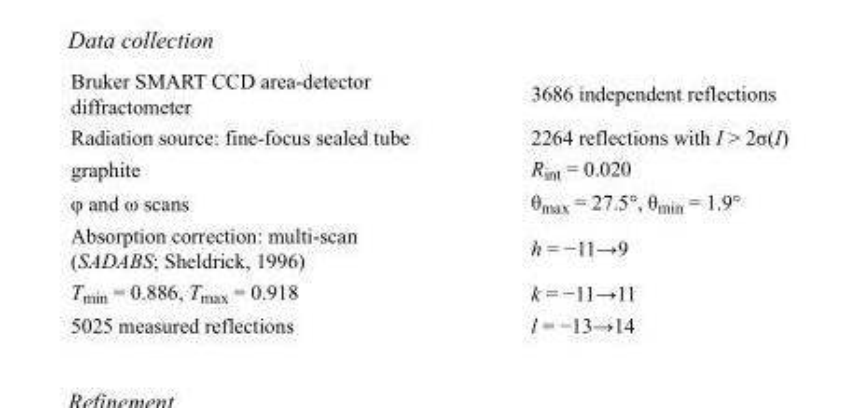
<table><tbody><tr><td>Bruker SMART CCD area-detector diffractometer</td><td>3686 independent reflections</td></tr><tr><td>Radiation source: fine-focus sealed tube</td><td>2264 reflections with I &gt; 2σ(I)</td></tr><tr><td>graphite</td><td>R<sub>int</sub> = 0.020</td></tr><tr><td>φ and ω scans</td><td>θ<sub>max</sub> = 27.5°, θ<sub>min</sub> = 1.9°</td></tr><tr><td>Absorption correction: multi-scan (SADABS; Sheldrick, 1996)</td><td>h = −11→9</td></tr><tr><td>T<sub>min</sub> = 0.886, T<sub>max</sub> = 0.918</td><td>k = −11→11</td></tr><tr><td>5025 measured reflections</td><td>l = −13→14</td></tr></tbody></table>